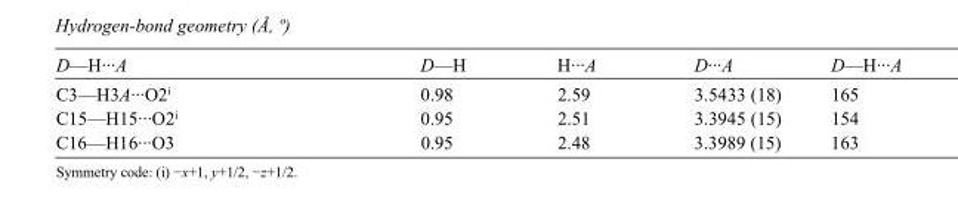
<table><tbody><tr><td>D—H···A</td><td>D—H</td><td>H···A</td><td>D···A</td><td>D—H···A</td></tr><tr><td>C3—H3A···O2<sup>i</sup></td><td>0.98</td><td>2.59</td><td>3.5433 (18)</td><td>165</td></tr><tr><td>C15—H15···O2<sup>i</sup></td><td>0.95</td><td>2.51</td><td>3.3945 (15)</td><td>154</td></tr><tr><td>C16—H16···O3</td><td>0.95</td><td>2.48</td><td>3.3989 (15)</td><td>163</td></tr></tbody></table>